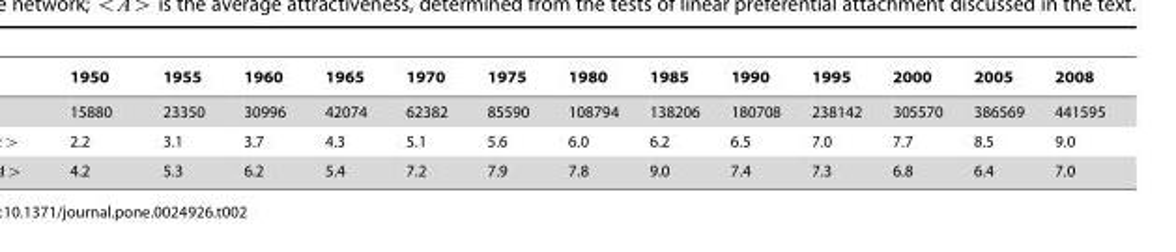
<table><thead><tr><td>1950</td><td>1955</td><td>1960</td><td>1965</td><td>1970</td><td>1975</td><td>1980</td><td>1985</td><td>1990</td><td>1995</td><td>2000</td><td>2005</td><td>2008</td></tr></thead><tbody><tr><td>15880</td><td>23350</td><td>30996</td><td>42074</td><td>62382</td><td>85590</td><td>108794</td><td>138206</td><td>180708</td><td>238142</td><td>305570</td><td>386569</td><td>441595</td></tr><tr><td>2.2</td><td>3.1</td><td>3.7</td><td>4.3</td><td>5.1</td><td>5.6</td><td>6.0</td><td>6.2</td><td>6.5</td><td>7.0</td><td>7.7</td><td>8.5</td><td>9.0</td></tr><tr><td>4.2</td><td>5.3</td><td>6.2</td><td>5.4</td><td>7.2</td><td>7.9</td><td>7.8</td><td>9.0</td><td>7.4</td><td>7.3</td><td>6.8</td><td>6.4</td><td>7.0</td></tr></tbody></table>